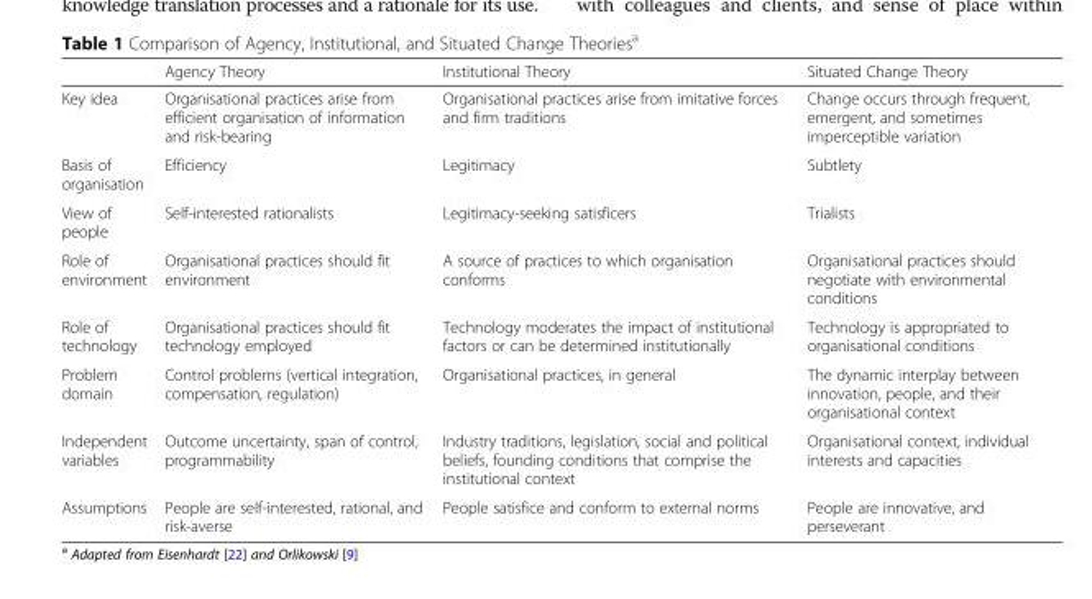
<table><thead><tr><td></td><td>Agency Theory</td><td>Institutional Theory</td><td>Situated Change Theory</td></tr></thead><tbody><tr><td>Key idea</td><td>Organisational practices arise from efficient organisation of information and risk-bearing</td><td>Organisational practices arise from imitative forces and firm traditions</td><td>Change occurs through frequent, emergent, and sometimes imperceptible variation</td></tr><tr><td>Basis of organisation</td><td>Efficiency</td><td>Legitimacy</td><td>Subtlety</td></tr><tr><td>View of people</td><td>Self-interested rationalists</td><td>Legitimacy-seeking satisficers</td><td>Trialists</td></tr><tr><td>Role of environment</td><td>Organisational practices should fit environment</td><td>A source of practices to which organisation conforms</td><td>Organisational practices should negotiate with environmental conditions</td></tr><tr><td>Role of technology</td><td>Organisational practices should fit technology employed</td><td>Technology moderates the impact of institutional factors or can be determined institutionally</td><td>Technology is appropriated to organisational conditions</td></tr><tr><td>Problem domain</td><td>Control problems (vertical integration, compensation, regulation)</td><td>Organisational practices, in general</td><td>The dynamic interplay between innovation, people, and their organisational context</td></tr><tr><td>Independent variables</td><td>Outcome uncertainty, span of control, programmability</td><td>Industry traditions, legislation, social and political beliefs, founding conditions that comprise the institutional context</td><td>Organisational context, individual interests and capacities</td></tr><tr><td>Assumptions</td><td>People are self-interested, rational, and risk-averse</td><td>People satisfice and conform to external norms</td><td>People are innovative, and perseverant</td></tr></tbody></table>